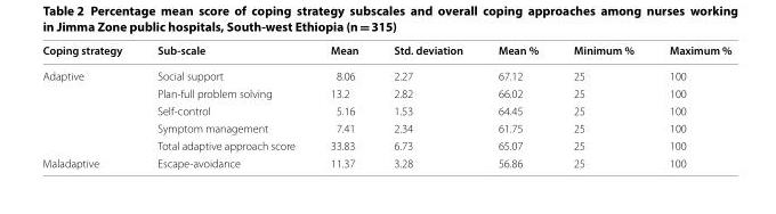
<table><thead><tr><td>Coping strategy</td><td>Sub-scale</td><td>Mean</td><td>Std. deviation</td><td>Mean %</td><td>Minimum %</td><td>Maximum %</td></tr></thead><tbody><tr><td rowspan="5">Adaptive</td><td>Social support</td><td>8.06</td><td>2.27</td><td>67.12</td><td>25</td><td>100</td></tr><tr><td>Plan-full problem solving</td><td>13.2</td><td>2.82</td><td>66.02</td><td>25</td><td>100</td></tr><tr><td>Self-control</td><td>5.16</td><td>1.53</td><td>64.45</td><td>25</td><td>100</td></tr><tr><td>Symptom management</td><td>7.41</td><td>2.34</td><td>61.75</td><td>25</td><td>100</td></tr><tr><td>Total adaptive approach score</td><td>33.83</td><td>6.73</td><td>65.07</td><td>25</td><td>100</td></tr><tr><td>Maladaptive</td><td>Escape-avoidance</td><td>11.37</td><td>3.28</td><td>56.86</td><td>25</td><td>100</td></tr></tbody></table>